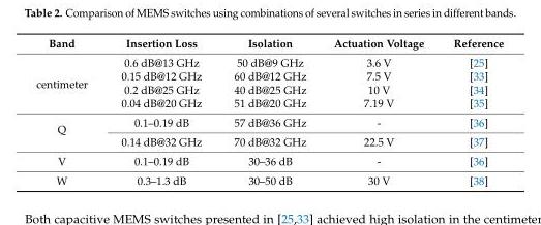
<table><thead><tr><td>Band</td><td>Insertion Loss</td><td>Isolation</td><td>Actuation Voltage</td><td>Reference</td></tr></thead><tbody><tr><td rowspan="4">centimeter</td><td>0.6 dB@13 GHz</td><td>50 dB@9 GHz</td><td>3.6 V</td><td>[25]</td></tr><tr><td>0.15 dB@12 GHz</td><td>60 dB@12 GHz</td><td>7.5 V</td><td>[33]</td></tr><tr><td>0.2 dB@25 GHz</td><td>40 dB@25 GHz</td><td>10 V</td><td>[34]</td></tr><tr><td>0.04 dB@20 GHz</td><td>51 dB@20 GHz</td><td>7.19 V</td><td>[35]</td></tr><tr><td rowspan="2">Q</td><td>0.1–0.19 dB</td><td>57 dB@36 GHz</td><td>-</td><td>[36]</td></tr><tr><td>0.14 dB@32 GHz</td><td>70 dB@32 GHz</td><td>22.5 V</td><td>[37]</td></tr><tr><td>V</td><td>0.1–0.19 dB</td><td>30–36 dB</td><td>-</td><td>[36]</td></tr><tr><td>W</td><td>0.3–1.3 dB</td><td>30–50 dB</td><td>30 V</td><td>[38]</td></tr></tbody></table>